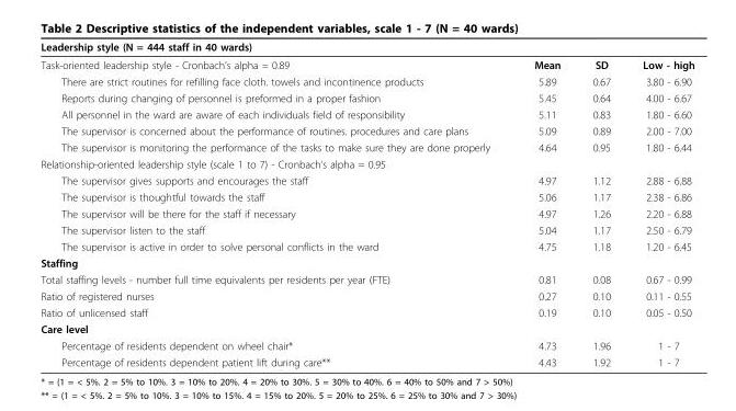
<table><thead><tr><td>Leadership style (N = 444 staff in 40 wards)</td><td></td><td></td><td></td></tr></thead><tbody><tr><td>Task-oriented leadership style - Cronbach’s alpha = 0.89</td><td>Mean</td><td>SD</td><td>Low - high</td></tr><tr><td>There are strict routines for refilling face cloth. towels and incontinence products</td><td>5.89</td><td>0.67</td><td>3.80 - 6.90</td></tr><tr><td>Reports during changing of personnel is preformed in a proper fashion</td><td>5.45</td><td>0.64</td><td>4.00 - 6.67</td></tr><tr><td>All personnel in the ward are aware of each individuals field of responsibility</td><td>5.11</td><td>0.83</td><td>1.80 - 6.60</td></tr><tr><td>The supervisor is concerned about the performance of routines. procedures and care plans</td><td>5.09</td><td>0.89</td><td>2.00 - 7.00</td></tr><tr><td>The supervisor is monitoring the performance of the tasks to make sure they are done properly</td><td>4.64</td><td>0.95</td><td>1.80 - 6.44</td></tr><tr><td colspan="4">Relationship-oriented leadership style (scale 1 to 7) - Cronbach’s alpha = 0.95</td></tr><tr><td>The supervisor gives supports and encourages the staff</td><td>4.97</td><td>1.12</td><td>2.88 - 6.88</td></tr><tr><td>The supervisor is thoughtful towards the staff</td><td>5.06</td><td>1.17</td><td>2.38 - 6.86</td></tr><tr><td>The supervisor will be there for the staff if necessary</td><td>4.97</td><td>1.26</td><td>2.20 - 6.88</td></tr><tr><td>The supervisor listen to the staff</td><td>5.04</td><td>1.17</td><td>2.50 - 6.79</td></tr><tr><td>The supervisor is active in order to solve personal conflicts in the ward</td><td>4.75</td><td>1.18</td><td>1.20 - 6.45</td></tr><tr><td colspan="4">Staffing</td></tr><tr><td>Total staffing levels - number full time equivalents per residents per year (FTE)</td><td>0.81</td><td>0.08</td><td>0.67 - 0.99</td></tr><tr><td>Ratio of registered nurses</td><td>0.27</td><td>0.10</td><td>0.11 - 0.55</td></tr><tr><td>Ratio of unlicensed staff</td><td>0.19</td><td>0.10</td><td>0.05 - 0.50</td></tr><tr><td colspan="4">Care level</td></tr><tr><td>Percentage of residents dependent on wheel chair*</td><td>4.73</td><td>1.96</td><td>1 - 7</td></tr><tr><td>Percentage of residents dependent patient lift during care**</td><td>4.43</td><td>1.92</td><td>1 - 7</td></tr></tbody></table>